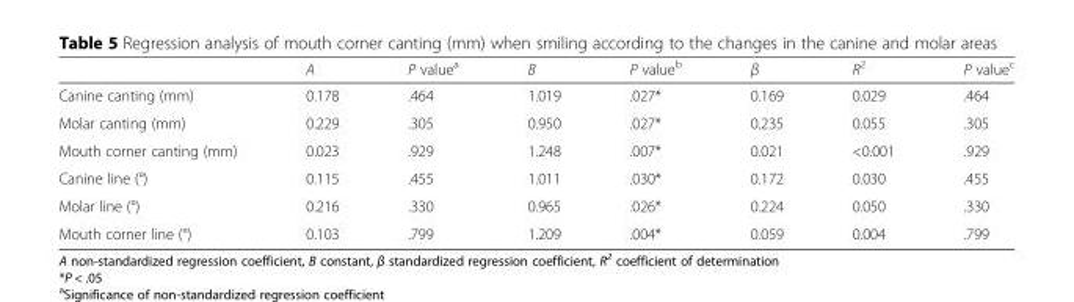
<table><thead><tr><td></td><td>A</td><td>P value<sup>a</sup></td><td>B</td><td>P value<sup>b</sup></td><td>β</td><td>R<sup>2</sup></td><td>P value<sup>c</sup></td></tr></thead><tbody><tr><td>Canine canting (mm)</td><td>0.178</td><td>.464</td><td>1.019</td><td>.027*</td><td>0.169</td><td>0.029</td><td>.464</td></tr><tr><td>Molar canting (mm)</td><td>0.229</td><td>.305</td><td>0.950</td><td>.027*</td><td>0.235</td><td>0.055</td><td>.305</td></tr><tr><td>Mouth corner canting (mm)</td><td>0.023</td><td>.929</td><td>1.248</td><td>.007*</td><td>0.021</td><td>&lt;0.001</td><td>.929</td></tr><tr><td>Canine line (°)</td><td>0.115</td><td>.455</td><td>1.011</td><td>.030*</td><td>0.172</td><td>0.030</td><td>.455</td></tr><tr><td>Molar line (°)</td><td>0.216</td><td>.330</td><td>0.965</td><td>.026*</td><td>0.224</td><td>0.050</td><td>.330</td></tr><tr><td>Mouth corner line (°)</td><td>0.103</td><td>.799</td><td>1.209</td><td>.004*</td><td>0.059</td><td>0.004</td><td>.799</td></tr></tbody></table>